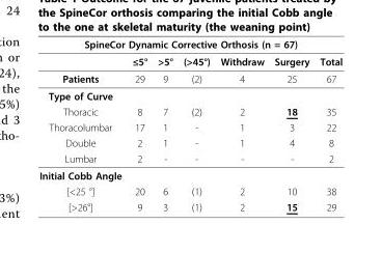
<table><thead><tr><td colspan="7">SpineCor Dynamic Corrective Orthosis (n = 67)</td></tr><tr><td></td><td>≤5°</td><td>&gt;5°</td><td>(&gt;45°)</td><td>Withdraw</td><td>Surgery</td><td>Total</td></tr></thead><tbody><tr><td>Patients</td><td>29</td><td>9</td><td>(2)</td><td>4</td><td>25</td><td>67</td></tr><tr><td colspan="7">Type of Curve</td></tr><tr><td>Thoracic</td><td>8</td><td>7</td><td>(2)</td><td>2</td><td>18</td><td>35</td></tr><tr><td>Thoracolumbar</td><td>17</td><td>1</td><td>-</td><td>1</td><td>3</td><td>22</td></tr><tr><td>Double</td><td>2</td><td>1</td><td>-</td><td>1</td><td>4</td><td>8</td></tr><tr><td>Lumbar</td><td>2</td><td>-</td><td>-</td><td>-</td><td>-</td><td>2</td></tr><tr><td colspan="7">Initial Cobb Angle</td></tr><tr><td>[&lt;25 °]</td><td>20</td><td>6</td><td>(1)</td><td>2</td><td>10</td><td>38</td></tr><tr><td>[&gt;26°]</td><td>9</td><td>3</td><td>(1)</td><td>2</td><td>15</td><td>29</td></tr></tbody></table>